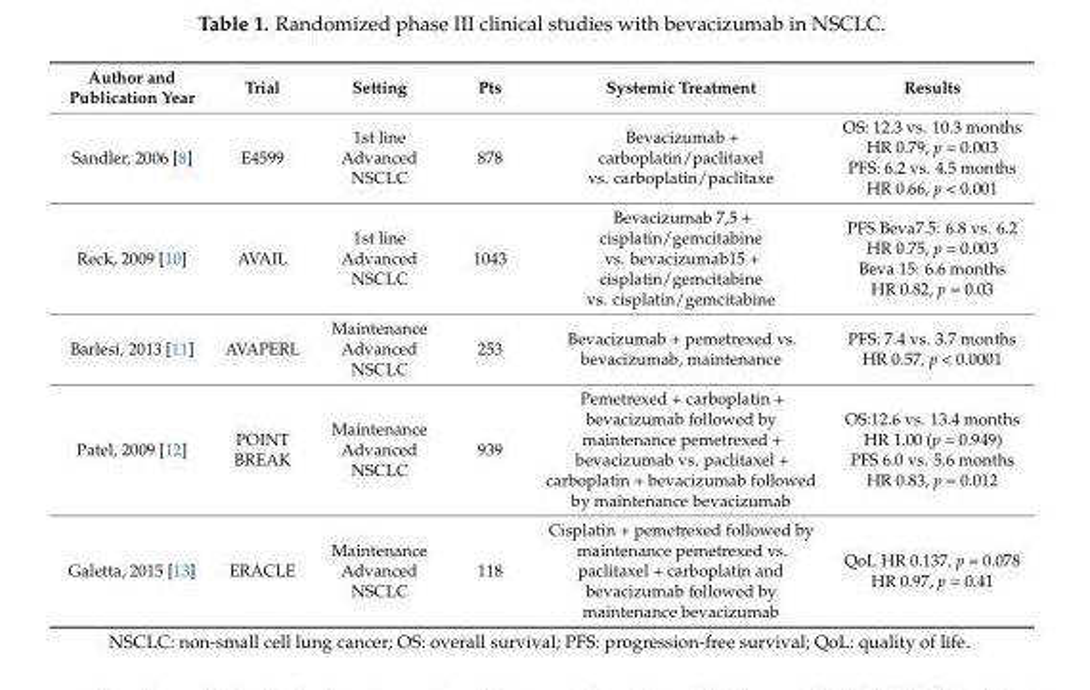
<table><thead><tr><td>Author and Publication Year</td><td>Trial</td><td>Setting</td><td>Pts</td><td>Systemic Treatment</td><td>Results</td></tr></thead><tbody><tr><td>Sandler, 2006 [8]</td><td>E4599</td><td>1st line Advanced NSCLC</td><td>878</td><td>Bevacizumab + carboplatin/paclitaxel vs. carboplatin/paclitaxe</td><td>OS: 12.3 vs. 10.3 months HR 0.79, p = 0.003 PFS: 6.2 vs. 4.5 months HR 0.66, p &lt; 0.001</td></tr><tr><td>Reck, 2009 [10]</td><td>AVAIL</td><td>1st line Advanced NSCLC</td><td>1043</td><td>Bevacizumab 7,5 + cisplatin/gemcitabine vs. bevacizumab15 + cisplatin/gemcitabine vs. cisplatin/gemcitabine</td><td>PFS Beva7.5: 6.8 vs. 6.2 HR 0.75, p = 0.003 Beva 15: 6.6 months HR 0.82, p = 0.03</td></tr><tr><td>Barlesi, 2013 [11]</td><td>AVAPERL</td><td>Maintenance Advanced NSCLC</td><td>253</td><td>Bevacizumab + pemetrexed vs. bevacizumab, maintenance</td><td>PFS: 7.4 vs. 3.7 months HR 0.57, p &lt; 0.0001</td></tr><tr><td>Patel, 2009 [12]</td><td>POINT BREAK</td><td>Maintenance Advanced NSCLC</td><td>939</td><td>Pemetrexed + carboplatin + bevacizumab followed by maintenance pemetrexed + bevacizumab vs. paclitaxel + carboplatin + bevacizumab followed by maintenance bevacizumab</td><td>OS:12.6 vs. 13.4 months HR 1.00 (p = 0.949) PFS 6.0 vs. 5.6 months HR 0.83, p = 0.012</td></tr><tr><td>Galetta, 2015 [13]</td><td>ERACLE</td><td>Maintenance Advanced NSCLC</td><td>118</td><td>Cisplatin + pemetrexed followed by maintenance pemetrexed vs. paclitaxel + carboplatin and bevacizumab followed by maintenance bevacizumab</td><td>QoL HR 0.137, p = 0.078 HR 0.97, p = 0.41</td></tr></tbody></table>